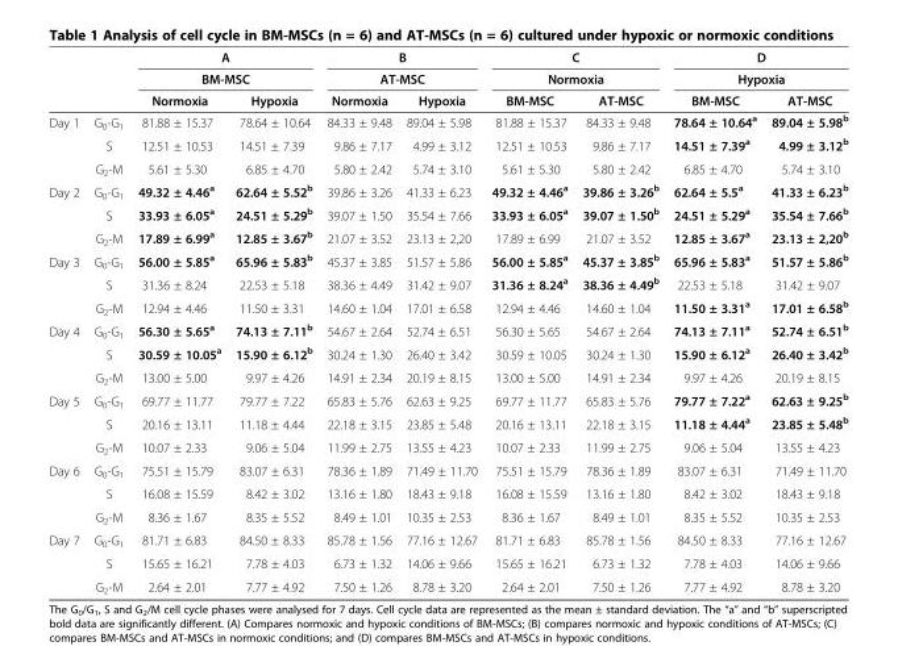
<table><thead><tr><td rowspan="3"></td><td rowspan="3"></td><td rowspan="2" colspan="2">A BM-MSC</td><td rowspan="2" colspan="2">B AT-MSC</td><td rowspan="2" colspan="2">C Normoxia</td><td rowspan="2" colspan="2">D Hypoxia</td></tr><tr></tr><tr><td>Normoxia</td><td>Hypoxia</td><td>Normoxia</td><td>Hypoxia</td><td>BM-MSC</td><td>AT-MSC</td><td>BM-MSC</td><td>AT-MSC</td></tr></thead><tbody><tr><td rowspan="3">Day 1</td><td>G<sub>0</sub>-G<sub>1</sub></td><td>81.88 ± 15.37</td><td>78.64 ± 10.64</td><td>84.33 ± 9.48</td><td>89.04 ± 5.98</td><td>81.88 ± 15.37</td><td>84.33 ± 9.48</td><td>78.64 ± 10.64<sup>a</sup></td><td>89.04 ± 5.98<sup>b</sup></td></tr><tr><td>S</td><td>12.51 ± 10.53</td><td>14.51 ± 7.39</td><td>9.86 ± 7.17</td><td>4.99 ± 3.12</td><td>12.51 ± 10.53</td><td>9.86 ± 7.17</td><td>14.51 ± 7.39<sup>a</sup></td><td>4.99 ± 3.12<sup>b</sup></td></tr><tr><td>G<sub>2</sub>-M</td><td>5.61 ± 5.30</td><td>6.85 ± 4.70</td><td>5.80 ± 2.42</td><td>5.74 ± 3.10</td><td>5.61 ± 5.30</td><td>5.80 ± 2.42</td><td>6.85 ± 4.70</td><td>5.74 ± 3.10</td></tr><tr><td rowspan="3">Day 2</td><td>G<sub>0</sub>-G<sub>1</sub></td><td>49.32 ± 4.46<sup>a</sup></td><td>62.64 ± 5.52<sup>b</sup></td><td>39.86 ± 3.26</td><td>41.33 ± 6.23</td><td>49.32 ± 4.46<sup>a</sup></td><td>39.86 ± 3.26<sup>b</sup></td><td>62.64 ± 5.5<sup>a</sup></td><td>41.33 ± 6.23<sup>b</sup></td></tr><tr><td>S</td><td>33.93 ± 6.05<sup>a</sup></td><td>24.51 ± 5.29<sup>b</sup></td><td>39.07 ± 1.50</td><td>35.54 ± 7.66</td><td>33.93 ± 6.05<sup>a</sup></td><td>39.07 ± 1.50<sup>b</sup></td><td>24.51 ± 5.29<sup>a</sup></td><td>35.54 ± 7.66<sup>b</sup></td></tr><tr><td>G<sub>2</sub>-M</td><td>17.89 ± 6.99<sup>a</sup></td><td>12.85 ± 3.67<sup>b</sup></td><td>21.07 ± 3.52</td><td>23.13 ± 2,20</td><td>17.89 ± 6.99</td><td>21.07 ± 3.52</td><td>12.85 ± 3.67<sup>a</sup></td><td>23.13 ± 2,20<sup>b</sup></td></tr><tr><td rowspan="3">Day 3</td><td>G<sub>0</sub>-G<sub>1</sub></td><td>56.00 ± 5.85<sup>a</sup></td><td>65.96 ± 5.83<sup>b</sup></td><td>45.37 ± 3.85</td><td>51.57 ± 5.86</td><td>56.00 ± 5.85<sup>a</sup></td><td>45.37 ± 3.85<sup>b</sup></td><td>65.96 ± 5.83<sup>a</sup></td><td>51.57 ± 5.86<sup>b</sup></td></tr><tr><td>S</td><td>31.36 ± 8.24</td><td>22.53 ± 5.18</td><td>38.36 ± 4.49</td><td>31.42 ± 9.07</td><td>31.36 ± 8.24<sup>a</sup></td><td>38.36 ± 4.49<sup>b</sup></td><td>22.53 ± 5.18</td><td>31.42 ± 9.07</td></tr><tr><td>G<sub>2</sub>-M</td><td>12.94 ± 4.46</td><td>11.50 ± 3.31</td><td>14.60 ± 1.04</td><td>17.01 ± 6.58</td><td>12.94 ± 4.46</td><td>14.60 ± 1.04</td><td>11.50 ± 3.31<sup>a</sup></td><td>17.01 ± 6.58<sup>b</sup></td></tr><tr><td rowspan="3">Day 4</td><td>G<sub>0</sub>-G<sub>1</sub></td><td>56.30 ± 5.65<sup>a</sup></td><td>74.13 ± 7.11<sup>b</sup></td><td>54.67 ± 2.64</td><td>52.74 ± 6.51</td><td>56.30 ± 5.65</td><td>54.67 ± 2.64</td><td>74.13 ± 7.11<sup>a</sup></td><td>52.74 ± 6.51<sup>b</sup></td></tr><tr><td>S</td><td>30.59 ± 10.05<sup>a</sup></td><td>15.90 ± 6.12<sup>b</sup></td><td>30.24 ± 1.30</td><td>26.40 ± 3.42</td><td>30.59 ± 10.05</td><td>30.24 ± 1.30</td><td>15.90 ± 6.12<sup>a</sup></td><td>26.40 ± 3.42<sup>b</sup></td></tr><tr><td>G<sub>2</sub>-M</td><td>13.00 ± 5.00</td><td>9.97 ± 4.26</td><td>14.91 ± 2.34</td><td>20.19 ± 8.15</td><td>13.00 ± 5.00</td><td>14.91 ± 2.34</td><td>9.97 ± 4.26</td><td>20.19 ± 8.15</td></tr><tr><td rowspan="3">Day 5</td><td>G<sub>0</sub>-G<sub>1</sub></td><td>69.77 ± 11.77</td><td>79.77 ± 7.22</td><td>65.83 ± 5.76</td><td>62.63 ± 9.25</td><td>69.77 ± 11.77</td><td>65.83 ± 5.76</td><td>79.77 ± 7.22<sup>a</sup></td><td>62.63 ± 9.25<sup>b</sup></td></tr><tr><td>S</td><td>20.16 ± 13.11</td><td>11.18 ± 4.44</td><td>22.18 ± 3.15</td><td>23.85 ± 5.48</td><td>20.16 ± 13.11</td><td>22.18 ± 3.15</td><td>11.18 ± 4.44<sup>a</sup></td><td>23.85 ± 5.48<sup>b</sup></td></tr><tr><td>G<sub>2</sub>-M</td><td>10.07 ± 2.33</td><td>9.06 ± 5.04</td><td>11.99 ± 2.75</td><td>13.55 ± 4.23</td><td>10.07 ± 2.33</td><td>11.99 ± 2.75</td><td>9.06 ± 5.04</td><td>13.55 ± 4.23</td></tr><tr><td rowspan="3">Day 6</td><td>G<sub>0</sub>-G<sub>1</sub></td><td>75.51 ± 15.79</td><td>83.07 ± 6.31</td><td>78.36 ± 1.89</td><td>71.49 ± 11.70</td><td>75.51 ± 15.79</td><td>78.36 ± 1.89</td><td>83.07 ± 6.31</td><td>71.49 ± 11.70</td></tr><tr><td>S</td><td>16.08 ± 15.59</td><td>8.42 ± 3.02</td><td>13.16 ± 1.80</td><td>18.43 ± 9.18</td><td>16.08 ± 15.59</td><td>13.16 ± 1.80</td><td>8.42 ± 3.02</td><td>18.43 ± 9.18</td></tr><tr><td>G<sub>2</sub>-M</td><td>8.36 ± 1.67</td><td>8.35 ± 5.52</td><td>8.49 ± 1.01</td><td>10.35 ± 2.53</td><td>8.36 ± 1.67</td><td>8.49 ± 1.01</td><td>8.35 ± 5.52</td><td>10.35 ± 2.53</td></tr><tr><td rowspan="3">Day 7</td><td>G<sub>0</sub>-G<sub>1</sub></td><td>81.71 ± 6.83</td><td>84.50 ± 8.33</td><td>85.78 ± 1.56</td><td>77.16 ± 12.67</td><td>81.71 ± 6.83</td><td>85.78 ± 1.56</td><td>84.50 ± 8.33</td><td>77.16 ± 12.67</td></tr><tr><td>S</td><td>15.65 ± 16.21</td><td>7.78 ± 4.03</td><td>6.73 ± 1.32</td><td>14.06 ± 9.66</td><td>15.65 ± 16.21</td><td>6.73 ± 1.32</td><td>7.78 ± 4.03</td><td>14.06 ± 9.66</td></tr><tr><td>G<sub>2</sub>-M</td><td>2.64 ± 2.01</td><td>7.77 ± 4.92</td><td>7.50 ± 1.26</td><td>8.78 ± 3.20</td><td>2.64 ± 2.01</td><td>7.50 ± 1.26</td><td>7.77 ± 4.92</td><td>8.78 ± 3.20</td></tr></tbody></table>